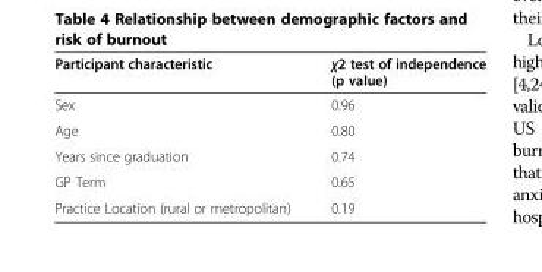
<table><thead><tr><td>Participant characteristic</td><td>χ2 test of independence (p value)</td></tr></thead><tbody><tr><td>Sex</td><td>0.96</td></tr><tr><td>Age</td><td>0.80</td></tr><tr><td>Years since graduation</td><td>0.74</td></tr><tr><td>GP Term</td><td>0.65</td></tr><tr><td>Practice Location (rural or metropolitan)</td><td>0.19</td></tr></tbody></table>